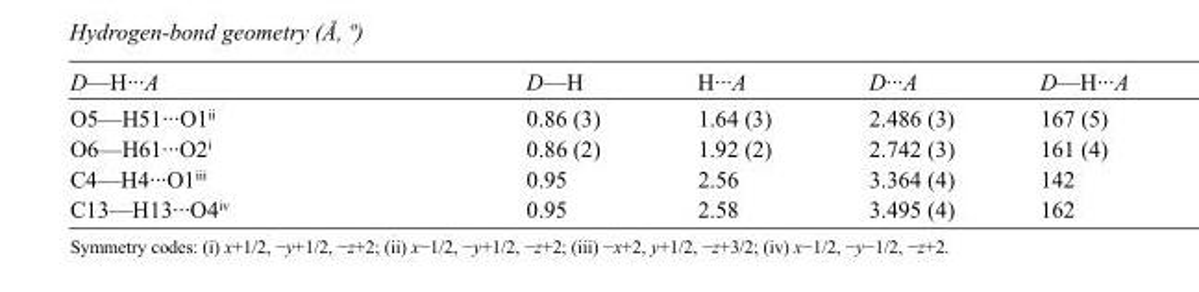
<table><tbody><tr><td>D—H···A</td><td>D—H</td><td>H···A</td><td>D···A</td><td>D—H···A</td></tr><tr><td>O5—H51···O1<sup>ii</sup></td><td>0.86 (3)</td><td>1.64 (3)</td><td>2.486 (3)</td><td>167 (5)</td></tr><tr><td>O6—H61···O2<sup>i</sup></td><td>0.86 (2)</td><td>1.92 (2)</td><td>2.742 (3)</td><td>161 (4)</td></tr><tr><td>C4—H4···O1<sup>iii</sup></td><td>0.95</td><td>2.56</td><td>3.364 (4)</td><td>142</td></tr><tr><td>C13—H13···O4<sup>iv</sup></td><td>0.95</td><td>2.58</td><td>3.495 (4)</td><td>162</td></tr></tbody></table>